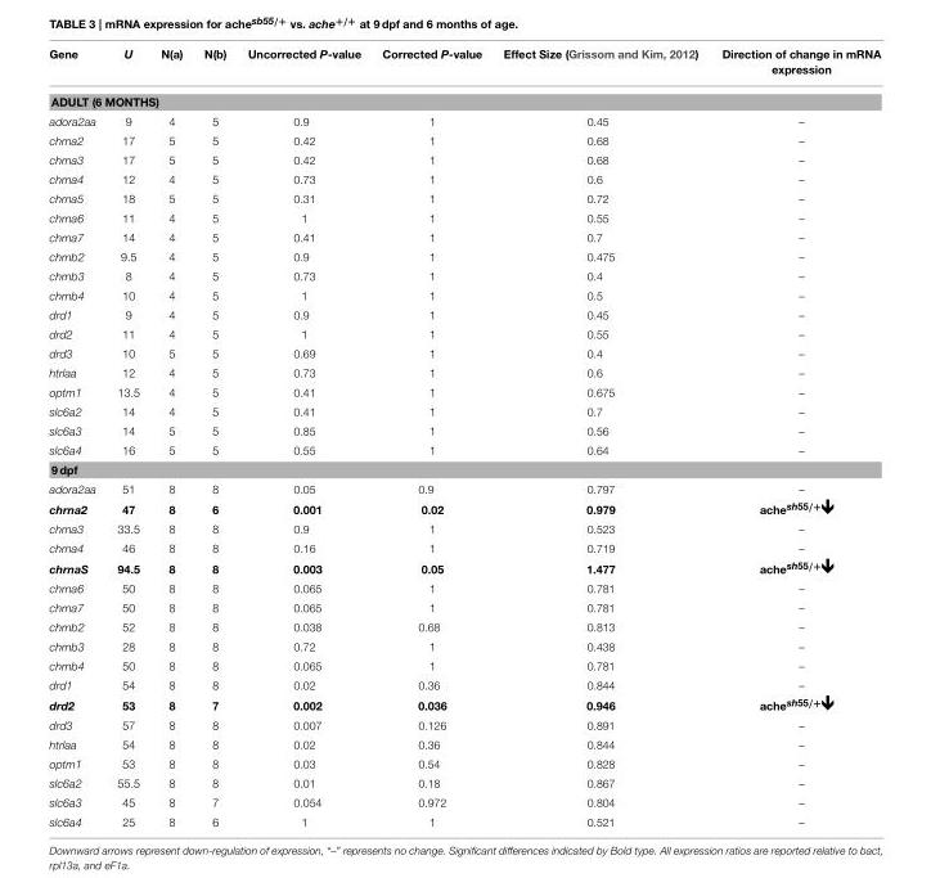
<table><thead><tr><td>Gene</td><td>U</td><td>N(a)</td><td>N(b)</td><td>Uncorrected P-value</td><td>Corrected P-value</td><td>Effect Size (Grissom and Kim, 2012)</td><td>Direction of change in mRNA expression</td></tr></thead><tbody><tr><td colspan="8">ADULT (6 MONTHS)</td></tr><tr><td>adora2aa</td><td>9</td><td>4</td><td>5</td><td>0.9</td><td>1</td><td>0.45</td><td>–</td></tr><tr><td>chrna2</td><td>17</td><td>5</td><td>5</td><td>0.42</td><td>1</td><td>0.68</td><td>–</td></tr><tr><td>chrna3</td><td>17</td><td>5</td><td>5</td><td>0.42</td><td>1</td><td>0.68</td><td>–</td></tr><tr><td>chrna4</td><td>12</td><td>4</td><td>5</td><td>0.73</td><td>1</td><td>0.6</td><td>–</td></tr><tr><td>chrna5</td><td>18</td><td>5</td><td>5</td><td>0.31</td><td>1</td><td>0.72</td><td>–</td></tr><tr><td>chrna6</td><td>11</td><td>4</td><td>5</td><td>1</td><td>1</td><td>0.55</td><td>–</td></tr><tr><td>chrna7</td><td>14</td><td>4</td><td>5</td><td>0.41</td><td>1</td><td>0.7</td><td>–</td></tr><tr><td>chrnb2</td><td>9.5</td><td>4</td><td>5</td><td>0.9</td><td>1</td><td>0.475</td><td>–</td></tr><tr><td>chrnb3</td><td>8</td><td>4</td><td>5</td><td>0.73</td><td>1</td><td>0.4</td><td>–</td></tr><tr><td>chrnb4</td><td>10</td><td>4</td><td>5</td><td>1</td><td>1</td><td>0.5</td><td>–</td></tr><tr><td>drd1</td><td>9</td><td>4</td><td>5</td><td>0.9</td><td>1</td><td>0.45</td><td>–</td></tr><tr><td>drd2</td><td>11</td><td>4</td><td>5</td><td>1</td><td>1</td><td>0.55</td><td>–</td></tr><tr><td>drd3</td><td>10</td><td>5</td><td>5</td><td>0.69</td><td>1</td><td>0.4</td><td>–</td></tr><tr><td>htrlaa</td><td>12</td><td>4</td><td>5</td><td>0.73</td><td>1</td><td>0.6</td><td>–</td></tr><tr><td>optm1</td><td>13.5</td><td>4</td><td>5</td><td>0.41</td><td>1</td><td>0.675</td><td>–</td></tr><tr><td>slc6a2</td><td>14</td><td>4</td><td>5</td><td>0.41</td><td>1</td><td>0.7</td><td>–</td></tr><tr><td>slc6a3</td><td>14</td><td>5</td><td>5</td><td>0.85</td><td>1</td><td>0.56</td><td>–</td></tr><tr><td>slc6a4</td><td>16</td><td>5</td><td>5</td><td>0.55</td><td>1</td><td>0.64</td><td>–</td></tr><tr><td colspan="8">9 dpf</td></tr><tr><td>adora2aa</td><td>51</td><td>8</td><td>8</td><td>0.05</td><td>0.9</td><td>0.797</td><td>–</td></tr><tr><td>chrna2</td><td>47</td><td>8</td><td>6</td><td>0.001</td><td>0.02</td><td>0.979</td><td>achesh55/+</td></tr><tr><td>chrna3</td><td>33.5</td><td>8</td><td>8</td><td>0.9</td><td>1</td><td>0.523</td><td>–</td></tr><tr><td>chrna4</td><td>46</td><td>8</td><td>8</td><td>0.16</td><td>1</td><td>0.719</td><td>–</td></tr><tr><td>chrnaS</td><td>94.5</td><td>8</td><td>8</td><td>0.003</td><td>0.05</td><td>1.477</td><td>achesh55/+</td></tr><tr><td>chrna6</td><td>50</td><td>8</td><td>8</td><td>0.065</td><td>1</td><td>0.781</td><td>–</td></tr><tr><td>chrna7</td><td>50</td><td>8</td><td>8</td><td>0.065</td><td>1</td><td>0.781</td><td>–</td></tr><tr><td>chrnb2</td><td>52</td><td>8</td><td>8</td><td>0.038</td><td>0.68</td><td>0.813</td><td>–</td></tr><tr><td>chrnb3</td><td>28</td><td>8</td><td>8</td><td>0.72</td><td>1</td><td>0.438</td><td>–</td></tr><tr><td>chrnb4</td><td>50</td><td>8</td><td>8</td><td>0.065</td><td>1</td><td>0.781</td><td>–</td></tr><tr><td>drd1</td><td>54</td><td>8</td><td>8</td><td>0.02</td><td>0.36</td><td>0.844</td><td>–</td></tr><tr><td>drd2</td><td>53</td><td>8</td><td>7</td><td>0.002</td><td>0.036</td><td>0.946</td><td>achesh55/+</td></tr><tr><td>drd3</td><td>57</td><td>8</td><td>8</td><td>0.007</td><td>0.126</td><td>0.891</td><td>–</td></tr><tr><td>htrlaa</td><td>54</td><td>8</td><td>8</td><td>0.02</td><td>0.36</td><td>0.844</td><td>–</td></tr><tr><td>optm1</td><td>53</td><td>8</td><td>8</td><td>0.03</td><td>0.54</td><td>0.828</td><td>–</td></tr><tr><td>slc6a2</td><td>55.5</td><td>8</td><td>8</td><td>0.01</td><td>0.18</td><td>0.867</td><td>–</td></tr><tr><td>slc6a3</td><td>45</td><td>8</td><td>7</td><td>0.054</td><td>0.972</td><td>0.804</td><td>–</td></tr><tr><td>slc6a4</td><td>25</td><td>8</td><td>6</td><td>1</td><td>1</td><td>0.521</td><td>–</td></tr></tbody></table>